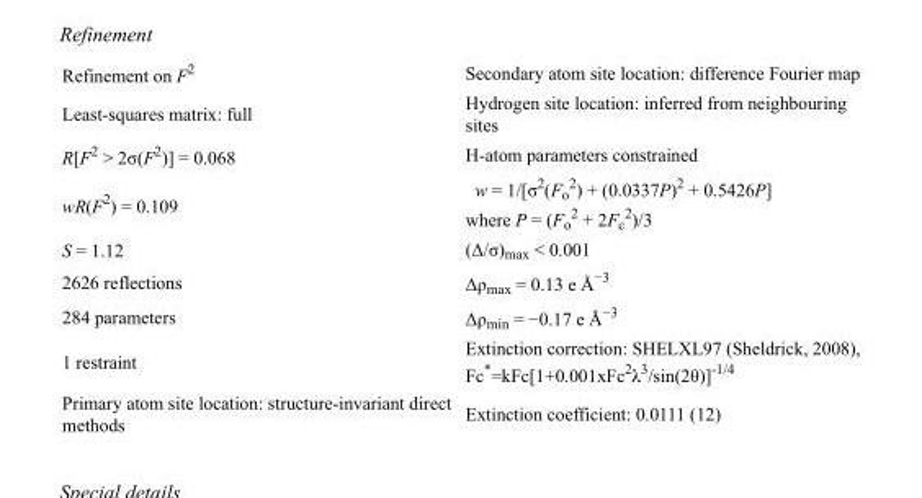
<table><tbody><tr><td>Refinement on F<sup>2</sup></td><td>Secondary atom site location: difference Fourier map</td></tr><tr><td>Least-squares matrix: full</td><td>Hydrogen site location: inferred from neighbouring sites</td></tr><tr><td>R[F<sup>2</sup> &gt; 2σ(F<sup>2</sup>)] = 0.068</td><td>H-atom parameters constrained</td></tr><tr><td>wR(F<sup>2</sup>) = 0.109</td><td>w = 1/[σ<sup>2</sup>(F<sub>o</sub> <sup>2</sup>) + (0.0337P)<sup>2</sup> + 0.5426P] where P = (F<sub>o</sub> <sup>2</sup> + 2F<sub>c</sub> <sup>2</sup>)/3</td></tr><tr><td>S = 1.12</td><td>(Δ/σ)<sub>max</sub> &lt; 0.001</td></tr><tr><td>2626 reflections</td><td>Δρ<sub>max</sub> = 0.13 e Å<sup>−3</sup></td></tr><tr><td>284 parameters</td><td>Δρ<sub>min</sub> = −0.17 e Å<sup>−3</sup></td></tr><tr><td>1 restraint</td><td>Extinction correction: SHELXL97 (Sheldrick, 2008), Fc*=kFc[1+0.001xFc<sup>2</sup>λ<sup>3</sup>/sin(2θ)]<sup>-1/4</sup></td></tr><tr><td>Primary atom site location: structure-invariant direct methods</td><td>Extinction coefficient: 0.0111 (12)</td></tr></tbody></table>